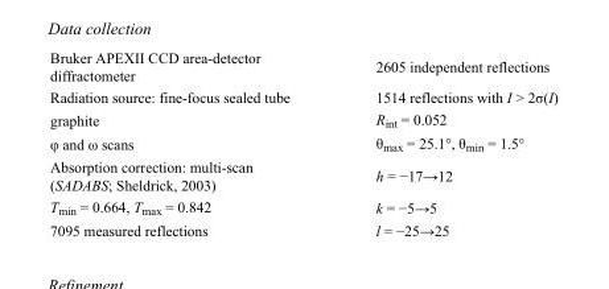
<table><tbody><tr><td>Bruker APEXII CCD area-detector diffractometer</td><td>2605 independent reflections</td></tr><tr><td>Radiation source: fine-focus sealed tube</td><td>1514 reflections with I &gt; 2σ(I)</td></tr><tr><td>graphite</td><td>R<sub>int</sub> = 0.052</td></tr><tr><td>φ and ω scans</td><td>θ<sub>max</sub> = 25.1°, θ<sub>min</sub> = 1.5°</td></tr><tr><td>Absorption correction: multi-scan (SADABS; Sheldrick, 2003)</td><td>h = −17→12</td></tr><tr><td>T<sub>min</sub> = 0.664, T<sub>max</sub> = 0.842</td><td>k = −5→5</td></tr><tr><td>7095 measured reflections</td><td>l = −25→25</td></tr></tbody></table>